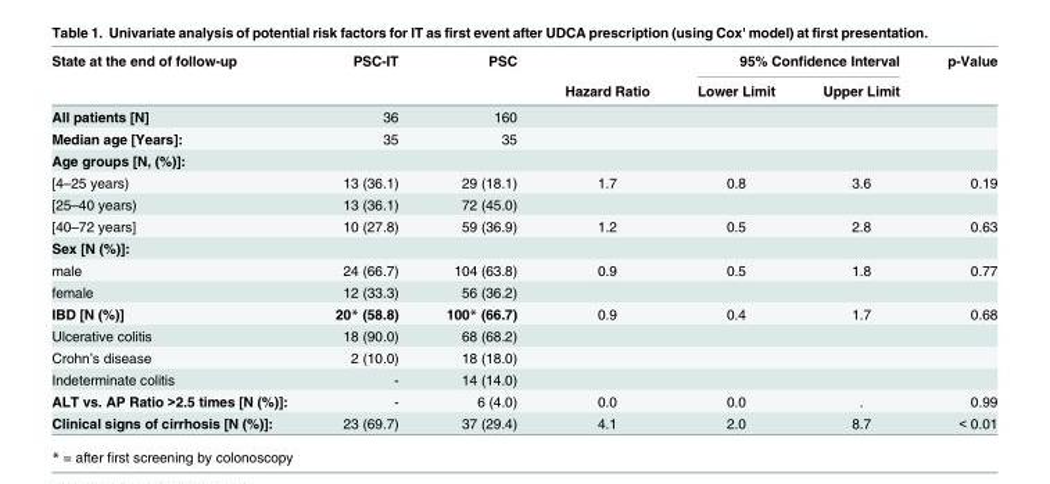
<table><thead><tr><td rowspan="2">State at the end of follow-up</td><td rowspan="2">PSC-IT</td><td rowspan="2">PSC</td><td rowspan="2">Hazard Ratio</td><td colspan="2">95% Confidence Interval</td><td rowspan="2">p-Value</td></tr><tr><td>Lower Limit</td><td>Upper Limit</td></tr></thead><tbody><tr><td>All patients [N]</td><td>36</td><td>160</td><td></td><td></td><td></td><td></td></tr><tr><td>Median age [Years]:</td><td>35</td><td>35</td><td></td><td></td><td></td><td></td></tr><tr><td colspan="7">Age groups [N, (%)]:</td></tr><tr><td>[4–25 years)</td><td>13 (36.1)</td><td>29 (18.1)</td><td>1.7</td><td>0.8</td><td>3.6</td><td>0.19</td></tr><tr><td>[25–40 years)</td><td>13 (36.1)</td><td>72 (45.0)</td><td></td><td></td><td></td><td></td></tr><tr><td>[40–72 years]</td><td>10 (27.8)</td><td>59 (36.9)</td><td>1.2</td><td>0.5</td><td>2.8</td><td>0.63</td></tr><tr><td colspan="7">Sex [N (%)]:</td></tr><tr><td>male</td><td>24 (66.7)</td><td>104 (63.8)</td><td>0.9</td><td>0.5</td><td>1.8</td><td>0.77</td></tr><tr><td>female</td><td>12 (33.3)</td><td>56 (36.2)</td><td></td><td></td><td></td><td></td></tr><tr><td>IBD [N (%)]</td><td>20* (58.8)</td><td>100* (66.7)</td><td>0.9</td><td>0.4</td><td>1.7</td><td>0.68</td></tr><tr><td>Ulcerative colitis</td><td>18 (90.0)</td><td>68 (68.2)</td><td></td><td></td><td></td><td></td></tr><tr><td>Crohn’s disease</td><td>2 (10.0)</td><td>18 (18.0)</td><td></td><td></td><td></td><td></td></tr><tr><td>Indeterminate colitis</td><td>-</td><td>14 (14.0)</td><td></td><td></td><td></td><td></td></tr><tr><td>ALT vs. AP Ratio &gt;2.5 times [N (%)]:</td><td>-</td><td>6 (4.0)</td><td>0.0</td><td>0.0</td><td>.</td><td>0.99</td></tr><tr><td>Clinical signs of cirrhosis [N (%)]:</td><td>23 (69.7)</td><td>37 (29.4)</td><td>4.1</td><td>2.0</td><td>8.7</td><td>&lt; 0.01</td></tr></tbody></table>